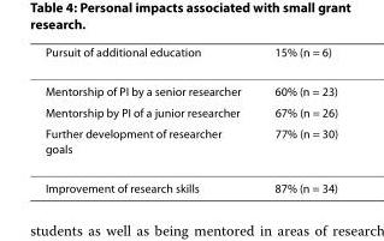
<table><thead><tr><td>Pursuit of additional education</td><td>15% (n = 6)</td></tr></thead><tbody><tr><td>Mentorship of PI by a senior researcher</td><td>60% (n = 23)</td></tr><tr><td>Mentorship by PI of a junior researcher</td><td>67% (n = 26)</td></tr><tr><td>Further development of researcher goals</td><td>77% (n = 30)</td></tr><tr><td>Improvement of research skills</td><td>87% (n = 34)</td></tr></tbody></table>